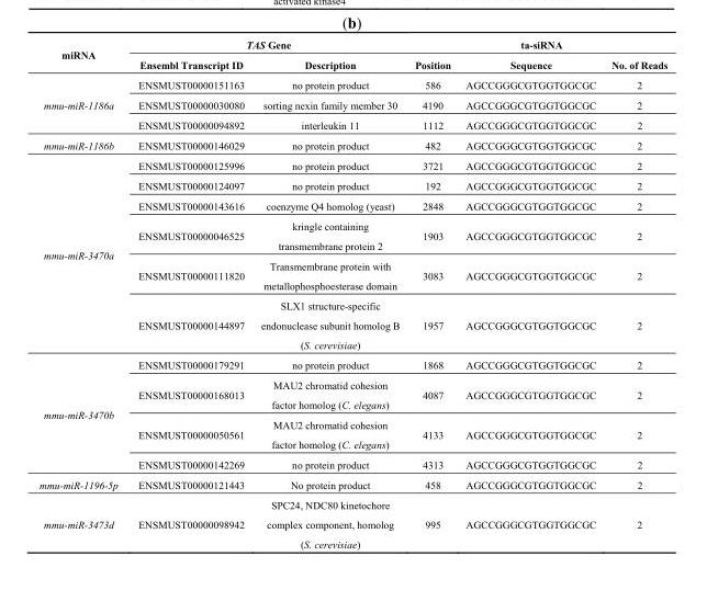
<table><thead><tr><td rowspan="2">miRNA</td><td colspan="2">TAS Gene</td><td colspan="3">ta-siRNA</td></tr><tr><td>Ensembl Transcript ID</td><td>Description</td><td>Position</td><td>Sequence</td><td>No. of Reads</td></tr></thead><tbody><tr><td rowspan="3">mmu-miR-1186a</td><td>ENSMUST00000151163</td><td>no protein product</td><td>586</td><td>AGCCGGGCGTGGTGGCGC</td><td>2</td></tr><tr><td>ENSMUST00000030080</td><td>sorting nexin family member 30</td><td>4190</td><td>AGCCGGGCGTGGTGGCGC</td><td>2</td></tr><tr><td>ENSMUST00000094892</td><td>interleukin 11</td><td>1112</td><td>AGCCGGGCGTGGTGGCGC</td><td>2</td></tr><tr><td>mmu-miR-1186b</td><td>ENSMUST00000146029</td><td>no protein product</td><td>482</td><td>AGCCGGGCGTGGTGGCGC</td><td>2</td></tr><tr><td rowspan="6">mmu-miR-3470a</td><td>ENSMUST00000125996</td><td>no protein product</td><td>3721</td><td>AGCCGGGCGTGGTGGCGC</td><td>2</td></tr><tr><td>ENSMUST00000124097</td><td>no protein product</td><td>192</td><td>AGCCGGGCGTGGTGGCGC</td><td>2</td></tr><tr><td>ENSMUST00000143616</td><td>coenzyme Q4 homolog (yeast)</td><td>2848</td><td>AGCCGGGCGTGGTGGCGC</td><td>2</td></tr><tr><td>ENSMUST00000046525</td><td>kringle containing transmembrane protein 2</td><td>1903</td><td>AGCCGGGCGTGGTGGCGC</td><td>2</td></tr><tr><td>ENSMUST00000111820</td><td>Transmembrane protein with metallophosphoesterase domain</td><td>3083</td><td>AGCCGGGCGTGGTGGCGC</td><td>2</td></tr><tr><td>ENSMUST00000144897</td><td>SLX1 structure-specific endonuclease subunit homolog B (S. cerevisiae)</td><td>1957</td><td>AGCCGGGCGTGGTGGCGC</td><td>2</td></tr><tr><td rowspan="4">mmu-miR-3470b</td><td>ENSMUST00000179291</td><td>no protein product</td><td>1868</td><td>AGCCGGGCGTGGTGGCGC</td><td>2</td></tr><tr><td>ENSMUST00000168013</td><td>MAU2 chromatid cohesion factor homolog (C. elegans)</td><td>4087</td><td>AGCCGGGCGTGGTGGCGC</td><td>2</td></tr><tr><td>ENSMUST00000050561</td><td>MAU2 chromatid cohesion factor homolog (C. elegans)</td><td>4133</td><td>AGCCGGGCGTGGTGGCGC</td><td>2</td></tr><tr><td>ENSMUST00000142269</td><td>no protein product</td><td>4313</td><td>AGCCGGGCGTGGTGGCGC</td><td>2</td></tr><tr><td>mmu-miR-1196-5p</td><td>ENSMUST00000121443</td><td>No protein product</td><td>458</td><td>AGCCGGGCGTGGTGGCGC</td><td>2</td></tr><tr><td>mmu-miR-3473d</td><td>ENSMUST00000098942</td><td>SPC24, NDC80 kinetochore complex component, homolog (S. cerevisiae)</td><td>995</td><td>AGCCGGGCGTGGTGGCGC</td><td>2</td></tr></tbody></table>